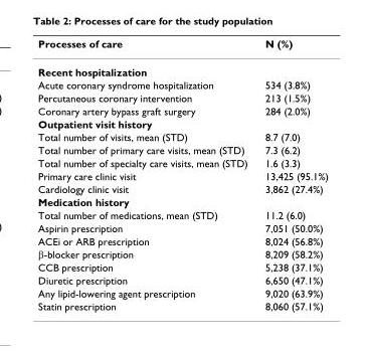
<table><thead><tr><td>Processes of care</td><td>N (%)</td></tr></thead><tbody><tr><td colspan="2">Recent hospitalization</td></tr><tr><td>Acute coronary syndrome hospitalization</td><td>534 (3.8%)</td></tr><tr><td>Percutaneous coronary intervention</td><td>213 (1.5%)</td></tr><tr><td>Coronary artery bypass graft surgery</td><td>284 (2.0%)</td></tr><tr><td colspan="2">Outpatient visit history</td></tr><tr><td>Total number of visits, mean (STD)</td><td>8.7 (7.0)</td></tr><tr><td>Total number of primary care visits, mean (STD)</td><td>7.3 (6.2)</td></tr><tr><td>Total number of specialty care visits, mean (STD)</td><td>1.6 (3.3)</td></tr><tr><td>Primary care clinic visit</td><td>13,425 (95.1%)</td></tr><tr><td>Cardiology clinic visit</td><td>3,862 (27.4%)</td></tr><tr><td colspan="2">Medication history</td></tr><tr><td>Total number of medications, mean (STD)</td><td>11.2 (6.0)</td></tr><tr><td>Aspirin prescription</td><td>7,051 (50.0%)</td></tr><tr><td>ACEi or ARB prescription</td><td>8,024 (56.8%)</td></tr><tr><td>β-blocker prescription</td><td>8,209 (58.2%)</td></tr><tr><td>CCB prescription</td><td>5,238 (37.1%)</td></tr><tr><td>Diuretic prescription</td><td>6,650 (47.1%)</td></tr><tr><td>Any lipid-lowering agent prescription</td><td>9,020 (63.9%)</td></tr><tr><td>Statin prescription</td><td>8,060 (57.1%)</td></tr></tbody></table>